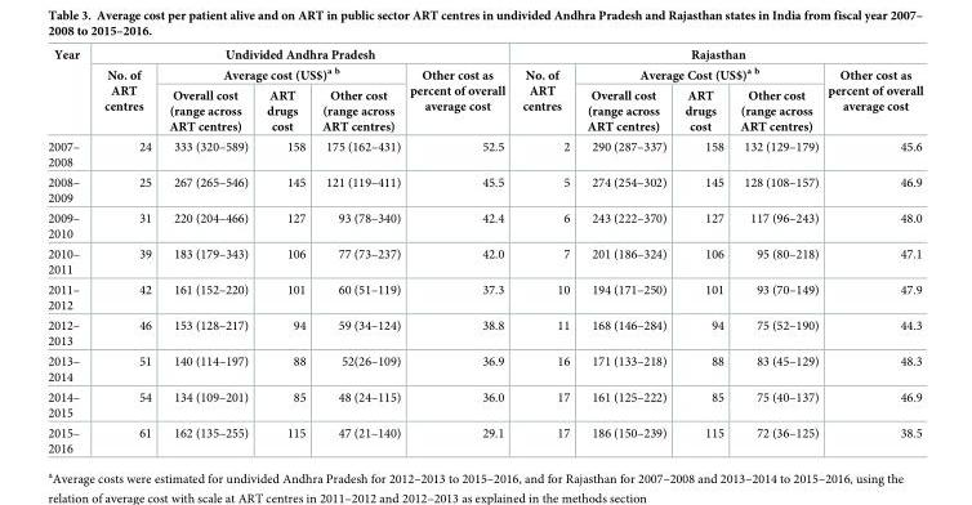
<table><thead><tr><td rowspan="3">Year</td><td colspan="5">Undivided Andhra Pradesh</td><td colspan="5">Rajasthan</td></tr><tr><td rowspan="2">No. of ART centres</td><td colspan="3">Average cost (US$)<sup>a b</sup></td><td rowspan="2">Other cost as percent of overall average cost</td><td rowspan="2">No. of ART centres</td><td colspan="3">Average Cost (US$)<sup>a b</sup></td><td rowspan="2">Other cost as percent of overall average cost</td></tr><tr><td>Overall cost (range across ART centres)</td><td>ART drugs cost</td><td>Other cost (range across ART centres)</td><td>Overall cost (range across ART centres)</td><td>ART drugs cost</td><td>Other cost (range across ART centres)</td></tr></thead><tbody><tr><td>2007– 2008</td><td>24</td><td>333 (320–589)</td><td>158</td><td>175 (162–431)</td><td>52.5</td><td>2</td><td>290 (287–337)</td><td>158</td><td>132 (129–179)</td><td>45.6</td></tr><tr><td>2008– 2009</td><td>25</td><td>267 (265–546)</td><td>145</td><td>121 (119–411)</td><td>45.5</td><td>5</td><td>274 (254–302)</td><td>145</td><td>128 (108–157)</td><td>46.9</td></tr><tr><td>2009– 2010</td><td>31</td><td>220 (204–466)</td><td>127</td><td>93 (78–340)</td><td>42.4</td><td>6</td><td>243 (222–370)</td><td>127</td><td>117 (96–243)</td><td>48.0</td></tr><tr><td>2010– 2011</td><td>39</td><td>183 (179–343)</td><td>106</td><td>77 (73–237)</td><td>42.0</td><td>7</td><td>201 (186–324)</td><td>106</td><td>95 (80–218)</td><td>47.1</td></tr><tr><td>2011– 2012</td><td>42</td><td>161 (152–220)</td><td>101</td><td>60 (51–119)</td><td>37.3</td><td>10</td><td>194 (171–250)</td><td>101</td><td>93 (70–149)</td><td>47.9</td></tr><tr><td>2012– 2013</td><td>46</td><td>153 (128–217)</td><td>94</td><td>59 (34–124)</td><td>38.8</td><td>11</td><td>168 (146–284)</td><td>94</td><td>75 (52–190)</td><td>44.3</td></tr><tr><td>2013– 2014</td><td>51</td><td>140 (114–197)</td><td>88</td><td>52(26–109)</td><td>36.9</td><td>16</td><td>171 (133–218)</td><td>88</td><td>83 (45–129)</td><td>48.3</td></tr><tr><td>2014– 2015</td><td>54</td><td>134 (109–201)</td><td>85</td><td>48 (24–115)</td><td>36.0</td><td>17</td><td>161 (125–222)</td><td>85</td><td>75 (40–137)</td><td>46.9</td></tr><tr><td>2015– 2016</td><td>61</td><td>162 (135–255)</td><td>115</td><td>47 (21–140)</td><td>29.1</td><td>17</td><td>186 (150–239)</td><td>115</td><td>72 (36–125)</td><td>38.5</td></tr></tbody></table>